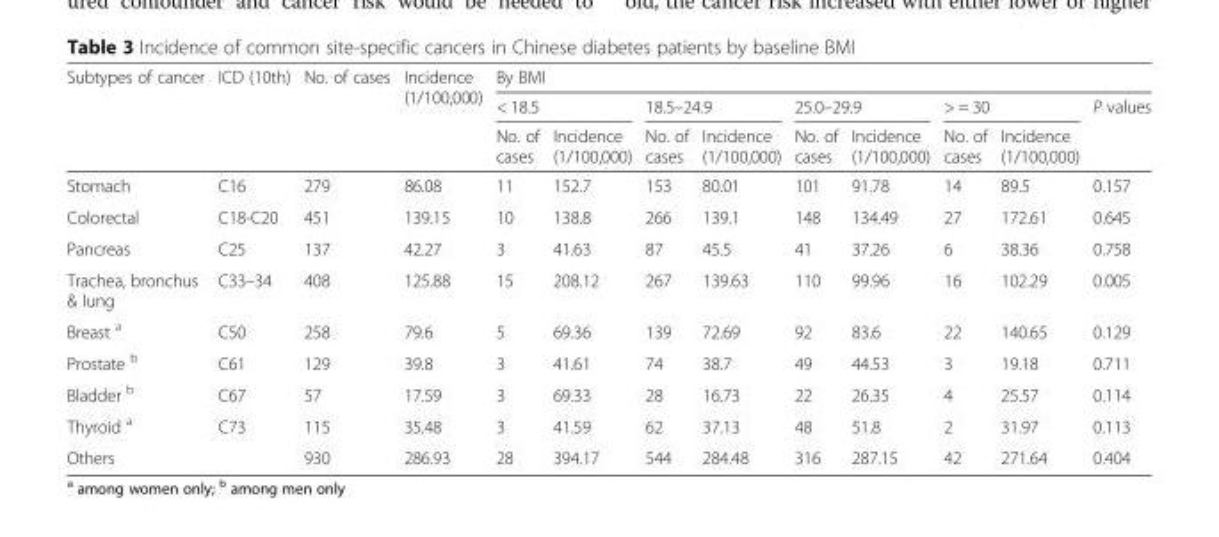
<table><thead><tr><td rowspan="3">Subtypes of cancer</td><td rowspan="3">ICD (10th)</td><td rowspan="3">No. of cases</td><td rowspan="3">Incidence (1/100,000)</td><td colspan="9">By BMI</td></tr><tr><td colspan="2">&lt; 18.5</td><td colspan="2">18.5–24.9</td><td colspan="2">25.0–29.9</td><td colspan="2">&gt; = 30</td><td rowspan="2">P values</td></tr><tr><td>No. of cases</td><td>Incidence (1/100,000)</td><td>No. of cases</td><td>Incidence (1/100,000)</td><td>No. of cases</td><td>Incidence (1/100,000)</td><td>No. of cases</td><td>Incidence (1/100,000)</td></tr></thead><tbody><tr><td>Stomach</td><td>C16</td><td>279</td><td>86.08</td><td>11</td><td>152.7</td><td>153</td><td>80.01</td><td>101</td><td>91.78</td><td>14</td><td>89.5</td><td>0.157</td></tr><tr><td>Colorectal</td><td>C18-C20</td><td>451</td><td>139.15</td><td>10</td><td>138.8</td><td>266</td><td>139.1</td><td>148</td><td>134.49</td><td>27</td><td>172.61</td><td>0.645</td></tr><tr><td>Pancreas</td><td>C25</td><td>137</td><td>42.27</td><td>3</td><td>41.63</td><td>87</td><td>45.5</td><td>41</td><td>37.26</td><td>6</td><td>38.36</td><td>0.758</td></tr><tr><td>Trachea, bronchus &amp; lung</td><td>C33–34</td><td>408</td><td>125.88</td><td>15</td><td>208.12</td><td>267</td><td>139.63</td><td>110</td><td>99.96</td><td>16</td><td>102.29</td><td>0.005</td></tr><tr><td>Breast <sup>a</sup></td><td>C50</td><td>258</td><td>79.6</td><td>5</td><td>69.36</td><td>139</td><td>72.69</td><td>92</td><td>83.6</td><td>22</td><td>140.65</td><td>0.129</td></tr><tr><td>Prostate <sup>b</sup></td><td>C61</td><td>129</td><td>39.8</td><td>3</td><td>41.61</td><td>74</td><td>38.7</td><td>49</td><td>44.53</td><td>3</td><td>19.18</td><td>0.711</td></tr><tr><td>Bladder <sup>b</sup></td><td>C67</td><td>57</td><td>17.59</td><td>3</td><td>69.33</td><td>28</td><td>16.73</td><td>22</td><td>26.35</td><td>4</td><td>25.57</td><td>0.114</td></tr><tr><td>Thyroid <sup>a</sup></td><td>C73</td><td>115</td><td>35.48</td><td>3</td><td>41.59</td><td>62</td><td>37.13</td><td>48</td><td>51.8</td><td>2</td><td>31.97</td><td>0.113</td></tr><tr><td>Others</td><td></td><td>930</td><td>286.93</td><td>28</td><td>394.17</td><td>544</td><td>284.48</td><td>316</td><td>287.15</td><td>42</td><td>271.64</td><td>0.404</td></tr></tbody></table>